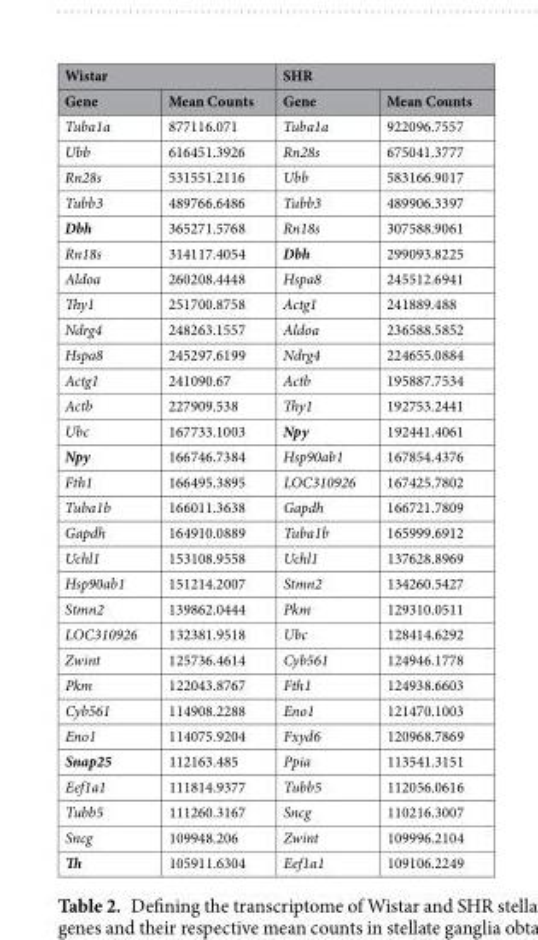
<table><thead><tr><td colspan="2">Wistar</td><td colspan="2">SHR</td></tr><tr><td>Gene</td><td>Mean Counts</td><td>Gene</td><td>Mean Counts</td></tr></thead><tbody><tr><td>Tuba1a</td><td>877116.071</td><td>Tuba1a</td><td>922096.7557</td></tr><tr><td>Ubb</td><td>616451.3926</td><td>Rn28s</td><td>675041.3777</td></tr><tr><td>Rn28s</td><td>531551.2116</td><td>Ubb</td><td>583166.9017</td></tr><tr><td>Tubb3</td><td>489766.6486</td><td>Tubb3</td><td>489906.3397</td></tr><tr><td>Dbh</td><td>365271.5768</td><td>Rn18s</td><td>307588.9061</td></tr><tr><td>Rn18s</td><td>314117.4054</td><td>Dbh</td><td>299093.8225</td></tr><tr><td>Aldoa</td><td>260208.4448</td><td>Hspa8</td><td>245512.6941</td></tr><tr><td>Thy1</td><td>251700.8758</td><td>Actg1</td><td>241889.488</td></tr><tr><td>Ndrg4</td><td>248263.1557</td><td>Aldoa</td><td>236588.5852</td></tr><tr><td>Hspa8</td><td>245297.6199</td><td>Ndrg4</td><td>224655.0884</td></tr><tr><td>Actg1</td><td>241090.67</td><td>Actb</td><td>195887.7534</td></tr><tr><td>Actb</td><td>227909.538</td><td>Thy1</td><td>192753.2441</td></tr><tr><td>Ubc</td><td>167733.1003</td><td>Npy</td><td>192441.4061</td></tr><tr><td>Npy</td><td>166746.7384</td><td>Hsp90ab1</td><td>167854.4376</td></tr><tr><td>Fth1</td><td>166495.3895</td><td>LOC310926</td><td>167425.7802</td></tr><tr><td>Tuba1b</td><td>166011.3638</td><td>Gapdh</td><td>166721.7809</td></tr><tr><td>Gapdh</td><td>164910.0889</td><td>Tuba1b</td><td>165999.6912</td></tr><tr><td>Uchl1</td><td>153108.9558</td><td>Uchl1</td><td>137628.8969</td></tr><tr><td>Hsp90ab1</td><td>151214.2007</td><td>Stmn2</td><td>134260.5427</td></tr><tr><td>Stmn2</td><td>139862.0444</td><td>Pkm</td><td>129310.0511</td></tr><tr><td>LOC310926</td><td>132381.9518</td><td>Ubc</td><td>128414.6292</td></tr><tr><td>Zwint</td><td>125736.4614</td><td>Cyb561</td><td>124946.1778</td></tr><tr><td>Pkm</td><td>122043.8767</td><td>Fth1</td><td>124938.6603</td></tr><tr><td>Cyb561</td><td>114908.2288</td><td>Eno1</td><td>121470.1003</td></tr><tr><td>Eno1</td><td>114075.9204</td><td>Fxyd6</td><td>120968.7869</td></tr><tr><td>Snap25</td><td>112163.485</td><td>Ppia</td><td>113541.3151</td></tr><tr><td>Eef1a1</td><td>111814.9377</td><td>Tubb5</td><td>112056.0616</td></tr><tr><td>Tubb5</td><td>111260.3167</td><td>Sncg</td><td>110216.3007</td></tr><tr><td>Sncg</td><td>109948.206</td><td>Zwint</td><td>109996.2104</td></tr><tr><td>Th</td><td>105911.6304</td><td>Eef1a1</td><td>109106.2249</td></tr></tbody></table>